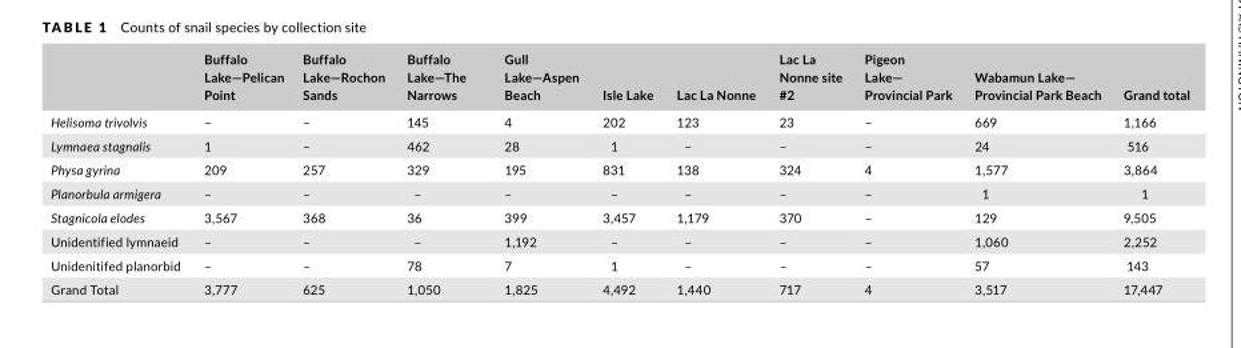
<table><thead><tr><td></td><td>Buffalo Lake—Pelican Point</td><td>Buffalo Lake—Rochon Sands</td><td>Buffalo Lake—The Narrows</td><td>Gull Lake—Aspen Beach</td><td>Isle Lake</td><td>Lac La Nonne</td><td>Lac La Nonne site #2</td><td>Pigeon Lake— Provincial Park</td><td>Wabamun Lake— Provincial Park Beach</td><td>Grand total</td></tr></thead><tbody><tr><td>Helisoma trivolvis</td><td>–</td><td>–</td><td>145</td><td>4</td><td>202</td><td>123</td><td>23</td><td>–</td><td>669</td><td>1,166</td></tr><tr><td>Lymnaea stagnalis</td><td>1</td><td>–</td><td>462</td><td>28</td><td>1</td><td>–</td><td>–</td><td>–</td><td>24</td><td>516</td></tr><tr><td>Physa gyrina</td><td>209</td><td>257</td><td>329</td><td>195</td><td>831</td><td>138</td><td>324</td><td>4</td><td>1,577</td><td>3,864</td></tr><tr><td>Planorbula armigera</td><td>–</td><td>–</td><td>–</td><td>–</td><td>–</td><td>–</td><td>–</td><td>–</td><td>1</td><td>1</td></tr><tr><td>Stagnicola elodes</td><td>3,567</td><td>368</td><td>36</td><td>399</td><td>3,457</td><td>1,179</td><td>370</td><td>–</td><td>129</td><td>9,505</td></tr><tr><td>Unidentified lymnaeid</td><td>–</td><td>–</td><td>–</td><td>1,192</td><td>–</td><td>–</td><td>–</td><td>–</td><td>1,060</td><td>2,252</td></tr><tr><td>Unidenitifed planorbid</td><td>–</td><td>–</td><td>78</td><td>7</td><td>1</td><td>–</td><td>–</td><td>–</td><td>57</td><td>143</td></tr><tr><td>Grand Total</td><td>3,777</td><td>625</td><td>1,050</td><td>1,825</td><td>4,492</td><td>1,440</td><td>717</td><td>4</td><td>3,517</td><td>17,447</td></tr></tbody></table>